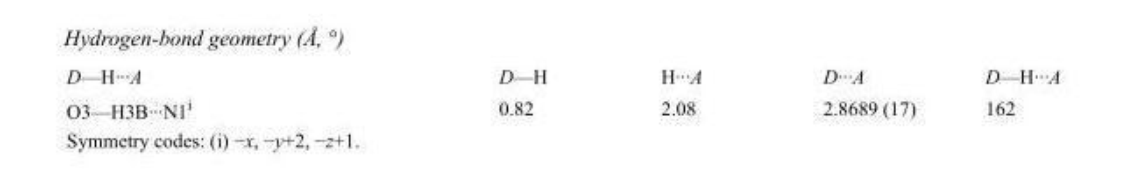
<table><tbody><tr><td>D—H···A</td><td>D—H</td><td>H···A</td><td>D···A</td><td>D—H···A</td></tr><tr><td>O3—H3B···N1<sup>i</sup></td><td>0.82</td><td>2.08</td><td>2.8689 (17)</td><td>162</td></tr></tbody></table>